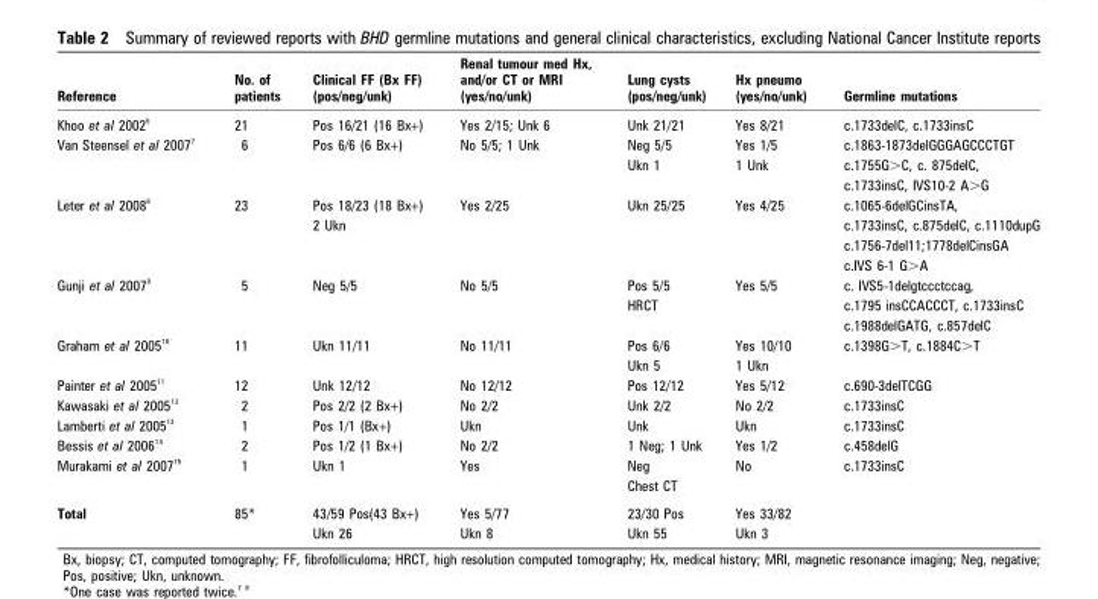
<table><thead><tr><td>Reference</td><td>No. of patients</td><td>Clinical FF (Bx FF) (pos/neg/unk)</td><td>Renal tumour med Hx, and/or CT or MRI (yes/no/unk)</td><td>Lung cysts (pos/neg/unk)</td><td>Hx pneumo (yes/no/unk)</td><td>Germline mutations</td></tr></thead><tbody><tr><td>Khoo et al 2002 <sup>5</sup></td><td>21</td><td>Pos 16/21 (16 Bx+)</td><td>Yes 2/15; Unk 6</td><td>Unk 21/21</td><td>Yes 8/21</td><td>c.1733delC, c.1733insC</td></tr><tr><td rowspan="3">Van Steensel et al 2007 <sup>7</sup></td><td>6</td><td>Pos 6/6 (6 Bx+)</td><td>No 5/5; 1 Unk</td><td>Neg 5/5</td><td>Yes 1/5</td><td>c.1863-1873delGGGAGCCCTGT</td></tr><tr><td></td><td></td><td></td><td>Ukn 1</td><td>1 Unk</td><td>c.1755G&gt;C, c. 875delC,</td></tr><tr><td></td><td></td><td></td><td></td><td></td><td>c.1733insC, IVS10-2 A&gt;G</td></tr><tr><td rowspan="4">Leter et al 2008 <sup>8</sup></td><td>23</td><td>Pos 18/23 (18 Bx+)</td><td>Yes 2/25</td><td>Ukn 25/25</td><td>Yes 4/25</td><td>c.1065-6delGCinsTA,</td></tr><tr><td></td><td>2 Ukn</td><td></td><td></td><td></td><td>c.1733insC, c.875delC, c.1110dupG</td></tr><tr><td></td><td></td><td></td><td></td><td></td><td>c.1756-7del11;1778delCinsGA</td></tr><tr><td></td><td></td><td></td><td></td><td></td><td>c.IVS 6-1 G&gt;A</td></tr><tr><td rowspan="3">Gunji et al 2007 <sup>9</sup></td><td>5</td><td>Neg 5/5</td><td>No 5/5</td><td>Pos 5/5</td><td>Yes 5/5</td><td>c. IVS5-1delgtccctccag,</td></tr><tr><td></td><td></td><td></td><td>HRCT</td><td></td><td>c.1795 insCCACCCT, c.1733insC</td></tr><tr><td></td><td></td><td></td><td></td><td></td><td>c.1988delGATG, c.857delC</td></tr><tr><td rowspan="2">Graham et al 2005 <sup>10</sup></td><td>11</td><td>Ukn 11/11</td><td>No 11/11</td><td>Pos 6/6</td><td>Yes 10/10</td><td>c.1398G&gt;T, c.1884C&gt;T</td></tr><tr><td></td><td></td><td></td><td>Ukn 5</td><td>1 Ukn</td><td></td></tr><tr><td>Painter et al 2005 <sup>11</sup></td><td>12</td><td>Unk 12/12</td><td>No 12/12</td><td>Pos 12/12</td><td>Yes 5/12</td><td>c.690-3delTCGG</td></tr><tr><td>Kawasaki et al 2005 <sup>12</sup></td><td>2</td><td>Pos 2/2 (2 Bx+)</td><td>No 2/2</td><td>Unk 2/2</td><td>No 2/2</td><td>c.1733insC</td></tr><tr><td>Lamberti et al 2005 <sup>13</sup></td><td>1</td><td>Pos 1/1 (Bx+)</td><td>Ukn</td><td>Unk</td><td>Ukn</td><td>c.1733insC</td></tr><tr><td>Bessis et al 2006 <sup>14</sup></td><td>2</td><td>Pos 1/2 (1 Bx+)</td><td>No 2/2</td><td>1 Neg; 1 Unk</td><td>Yes 1/2</td><td>c.458delG</td></tr><tr><td rowspan="2">Murakami et al 2007 <sup>15</sup></td><td>1</td><td>Ukn 1</td><td>Yes</td><td>Neg</td><td>No</td><td>c.1733insC</td></tr><tr><td></td><td></td><td></td><td>Chest CT</td><td></td><td></td></tr><tr><td rowspan="2">Total</td><td>85*</td><td>43/59 Pos(43 Bx+)</td><td>Yes 5/77</td><td>23/30 Pos</td><td>Yes 33/82</td><td></td></tr><tr><td></td><td>Ukn 26</td><td>Ukn 8</td><td>Ukn 55</td><td>Ukn 3</td><td></td></tr></tbody></table>